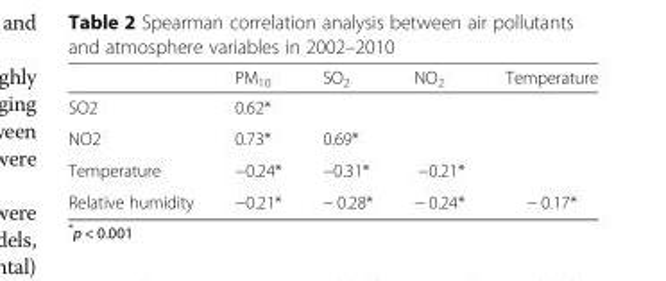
<table><thead><tr><td></td><td>PM<sub>10</sub></td><td>SO<sub>2</sub></td><td>NO<sub>2</sub></td><td>Temperature</td></tr></thead><tbody><tr><td>SO2</td><td>0.62*</td><td></td><td></td><td></td></tr><tr><td>NO2</td><td>0.73*</td><td>0.69*</td><td></td><td></td></tr><tr><td>Temperature</td><td>−0.24*</td><td>−0.31*</td><td>−0.21*</td><td></td></tr><tr><td>Relative humidity</td><td>−0.21*</td><td>− 0.28*</td><td>− 0.24*</td><td>− 0.17*</td></tr></tbody></table>